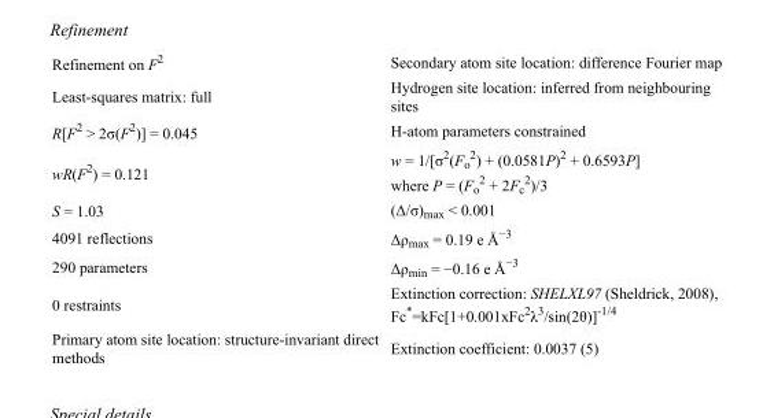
<table><tbody><tr><td>Refinement on F<sup>2</sup></td><td>Secondary atom site location: difference Fourier map</td></tr><tr><td>Least-squares matrix: full</td><td>Hydrogen site location: inferred from neighbouring sites</td></tr><tr><td>R[F<sup>2</sup> &gt; 2σ(F<sup>2</sup>)] = 0.045</td><td>H-atom parameters constrained</td></tr><tr><td>wR(F<sup>2</sup>) = 0.121</td><td>w = 1/[σ<sup>2</sup>(F<sub>o</sub> <sup>2</sup>) + (0.0581P)<sup>2</sup> + 0.6593P] where P = (F<sub>o</sub> <sup>2</sup> + 2F<sub>c</sub> <sup>2</sup>)/3</td></tr><tr><td>S = 1.03</td><td>(Δ/σ)<sub>max</sub> &lt; 0.001</td></tr><tr><td>4091 reflections</td><td>Δρ<sub>max</sub> = 0.19 e Å<sup>−3</sup></td></tr><tr><td>290 parameters</td><td>Δρ<sub>min</sub> = −0.16 e Å<sup>−3</sup></td></tr><tr><td>0 restraints</td><td>Extinction correction: SHELXL97 (Sheldrick, 2008), Fc*=kFc[1+0.001xFc<sup>2</sup>λ<sup>3</sup>/sin(2θ)]<sup>-1/4</sup></td></tr><tr><td>Primary atom site location: structure-invariant direct methods</td><td>Extinction coefficient: 0.0037 (5)</td></tr></tbody></table>